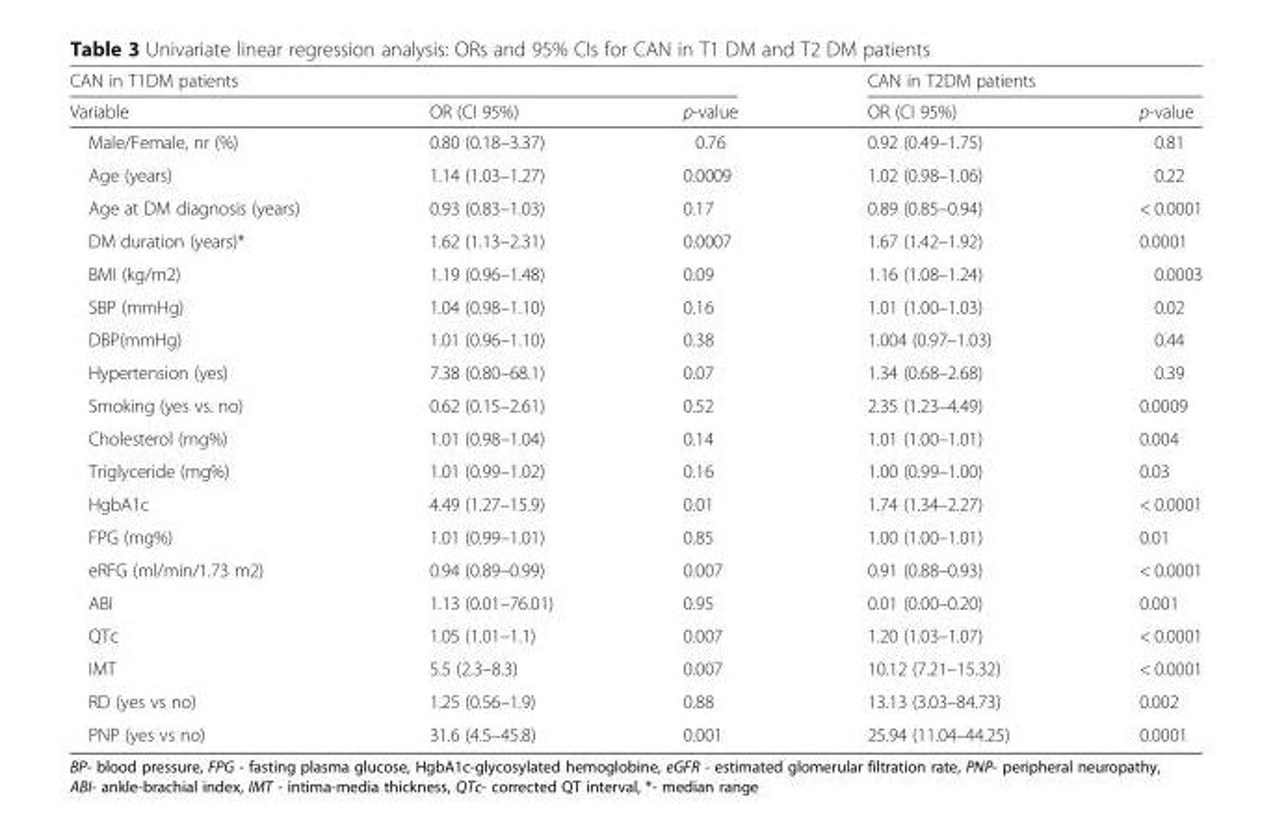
<table><thead><tr><td colspan="3">CAN in T1DM patients</td><td colspan="2">CAN in T2DM patients</td></tr><tr><td>Variable</td><td>OR (CI 95%)</td><td>p-value</td><td>OR (CI 95%)</td><td>p-value</td></tr></thead><tbody><tr><td>Male/Female, nr (%)</td><td>0.80 (0.18–3.37)</td><td>0.76</td><td>0.92 (0.49–1.75)</td><td>0.81</td></tr><tr><td>Age (years)</td><td>1.14 (1.03–1.27)</td><td>0.0009</td><td>1.02 (0.98–1.06)</td><td>0.22</td></tr><tr><td>Age at DM diagnosis (years)</td><td>0.93 (0.83–1.03)</td><td>0.17</td><td>0.89 (0.85–0.94)</td><td>&lt; 0.0001</td></tr><tr><td>DM duration (years)*</td><td>1.62 (1.13–2.31)</td><td>0.0007</td><td>1.67 (1.42–1.92)</td><td>0.0001</td></tr><tr><td>BMI (kg/m2)</td><td>1.19 (0.96–1.48)</td><td>0.09</td><td>1.16 (1.08–1.24)</td><td>0.0003</td></tr><tr><td>SBP (mmHg)</td><td>1.04 (0.98–1.10)</td><td>0.16</td><td>1.01 (1.00–1.03)</td><td>0.02</td></tr><tr><td>DBP(mmHg)</td><td>1.01 (0.96–1.10)</td><td>0.38</td><td>1.004 (0.97–1.03)</td><td>0.44</td></tr><tr><td>Hypertension (yes)</td><td>7.38 (0.80–68.1)</td><td>0.07</td><td>1.34 (0.68–2.68)</td><td>0.39</td></tr><tr><td>Smoking (yes vs. no)</td><td>0.62 (0.15–2.61)</td><td>0.52</td><td>2.35 (1.23–4.49)</td><td>0.0009</td></tr><tr><td>Cholesterol (mg%)</td><td>1.01 (0.98–1.04)</td><td>0.14</td><td>1.01 (1.00–1.01)</td><td>0.004</td></tr><tr><td>Triglyceride (mg%)</td><td>1.01 (0.99–1.02)</td><td>0.16</td><td>1.00 (0.99–1.00)</td><td>0.03</td></tr><tr><td>HgbA1c</td><td>4.49 (1.27–15.9)</td><td>0.01</td><td>1.74 (1.34–2.27)</td><td>&lt; 0.0001</td></tr><tr><td>FPG (mg%)</td><td>1.01 (0.99–1.01)</td><td>0.85</td><td>1.00 (1.00–1.01)</td><td>0.01</td></tr><tr><td>eRFG (ml/min/1.73 m2)</td><td>0.94 (0.89–0.99)</td><td>0.007</td><td>0.91 (0.88–0.93)</td><td>&lt; 0.0001</td></tr><tr><td>ABI</td><td>1.13 (0.01–76.01)</td><td>0.95</td><td>0.01 (0.00–0.20)</td><td>0.001</td></tr><tr><td>QTc</td><td>1.05 (1.01–1.1)</td><td>0.007</td><td>1.20 (1.03–1.07)</td><td>&lt; 0.0001</td></tr><tr><td>IMT</td><td>5.5 (2.3–8.3)</td><td>0.007</td><td>10.12 (7.21–15.32)</td><td>&lt; 0.0001</td></tr><tr><td>RD (yes vs no)</td><td>1.25 (0.56–1.9)</td><td>0.88</td><td>13.13 (3.03–84.73)</td><td>0.002</td></tr><tr><td>PNP (yes vs no)</td><td>31.6 (4.5–45.8)</td><td>0.001</td><td>25.94 (11.04–44.25)</td><td>0.0001</td></tr></tbody></table>